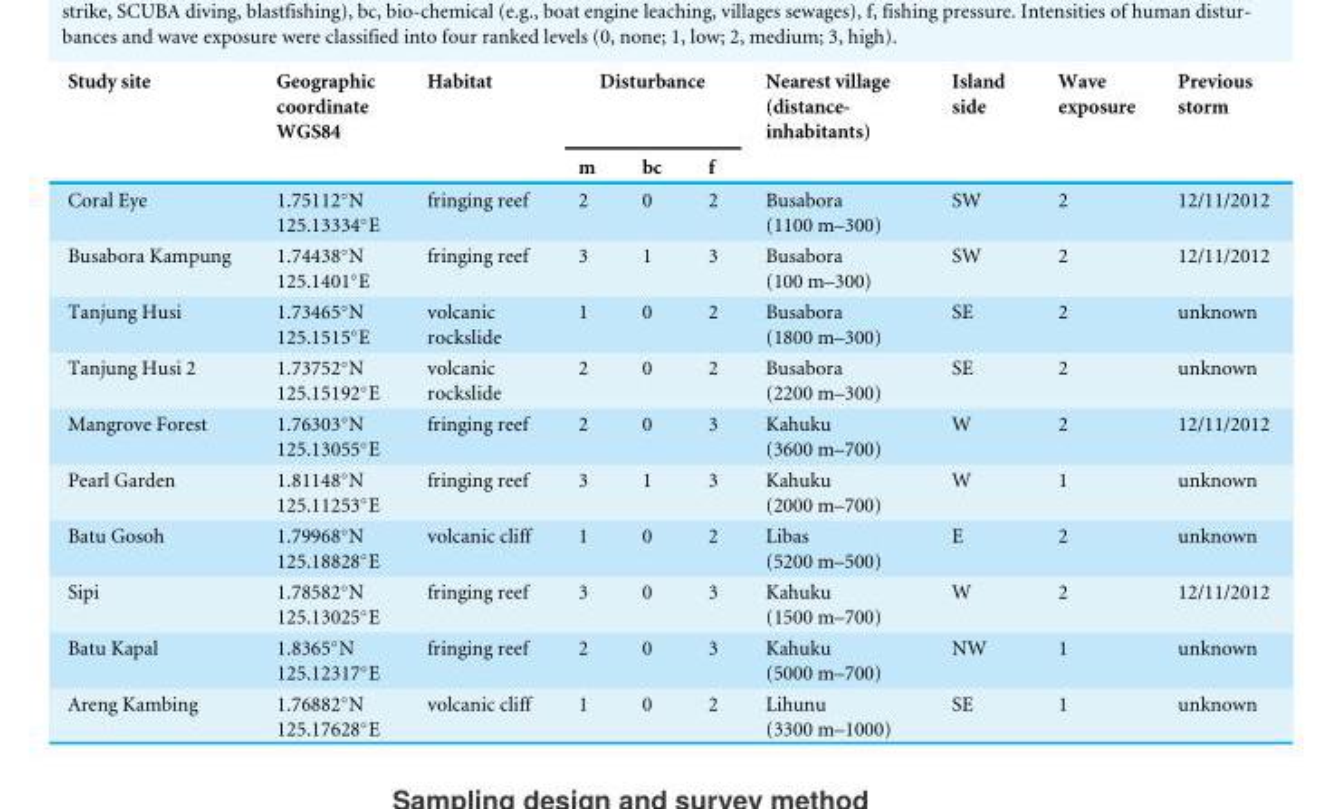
<table><thead><tr><td rowspan="2">Study site</td><td rowspan="2">Geographic coordinate WGS84</td><td rowspan="2">Habitat</td><td colspan="3">Disturbance</td><td rowspan="2">Nearest village (distance- inhabitants)</td><td rowspan="2">Island side</td><td rowspan="2">Wave exposure</td><td rowspan="2">Previous storm</td></tr><tr><td>m</td><td>bc</td><td>f</td></tr></thead><tbody><tr><td>Coral Eye</td><td>1.75112◦N 125.13334◦E</td><td>fringing reef</td><td>2</td><td>0</td><td>2</td><td>Busabora (1100 m–300)</td><td>SW</td><td>2</td><td>12/11/2012</td></tr><tr><td>Busabora Kampung</td><td>1.74438◦N 125.1401◦E</td><td>fringing reef</td><td>3</td><td>1</td><td>3</td><td>Busabora (100 m–300)</td><td>SW</td><td>2</td><td>12/11/2012</td></tr><tr><td>Tanjung Husi</td><td>1.73465◦N 125.1515◦E</td><td>volcanic rockslide</td><td>1</td><td>0</td><td>2</td><td>Busabora (1800 m–300)</td><td>SE</td><td>2</td><td>unknown</td></tr><tr><td>Tanjung Husi 2</td><td>1.73752◦N 125.15192◦E</td><td>volcanic rockslide</td><td>2</td><td>0</td><td>2</td><td>Busabora (2200 m–300)</td><td>SE</td><td>2</td><td>unknown</td></tr><tr><td>Mangrove Forest</td><td>1.76303◦N 125.13055◦E</td><td>fringing reef</td><td>2</td><td>0</td><td>3</td><td>Kahuku (3600 m–700)</td><td>W</td><td>2</td><td>12/11/2012</td></tr><tr><td>Pearl Garden</td><td>1.81148◦N 125.11253◦E</td><td>fringing reef</td><td>3</td><td>1</td><td>3</td><td>Kahuku (2000 m–700)</td><td>W</td><td>1</td><td>unknown</td></tr><tr><td>Batu Gosoh</td><td>1.79968◦N 125.18828◦E</td><td>volcanic cliff</td><td>1</td><td>0</td><td>2</td><td>Libas (5200 m–500)</td><td>E</td><td>2</td><td>unknown</td></tr><tr><td>Sipi</td><td>1.78582◦N 125.13025◦E</td><td>fringing reef</td><td>3</td><td>0</td><td>3</td><td>Kahuku (1500 m–700)</td><td>W</td><td>2</td><td>12/11/2012</td></tr><tr><td>Batu Kapal</td><td>1.8365◦N 125.12317◦E</td><td>fringing reef</td><td>2</td><td>0</td><td>3</td><td>Kahuku (5000 m–700)</td><td>NW</td><td>1</td><td>unknown</td></tr><tr><td>Areng Kambing</td><td>1.76882◦N 125.17628◦E</td><td>volcanic cliff</td><td>1</td><td>0</td><td>2</td><td>Lihunu (3300 m–1000)</td><td>SE</td><td>1</td><td>unknown</td></tr></tbody></table>